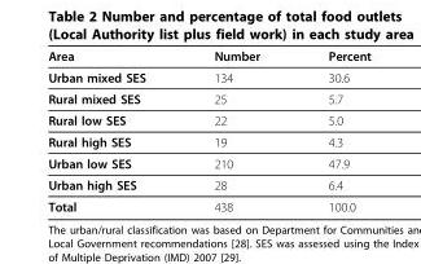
<table><thead><tr><td>Area</td><td>Number</td><td>Percent</td></tr></thead><tbody><tr><td>Urban mixed SES</td><td>134</td><td>30.6</td></tr><tr><td>Rural mixed SES</td><td>25</td><td>5.7</td></tr><tr><td>Rural low SES</td><td>22</td><td>5.0</td></tr><tr><td>Rural high SES</td><td>19</td><td>4.3</td></tr><tr><td>Urban low SES</td><td>210</td><td>47.9</td></tr><tr><td>Urban high SES</td><td>28</td><td>6.4</td></tr><tr><td>Total</td><td>438</td><td>100.0</td></tr></tbody></table>